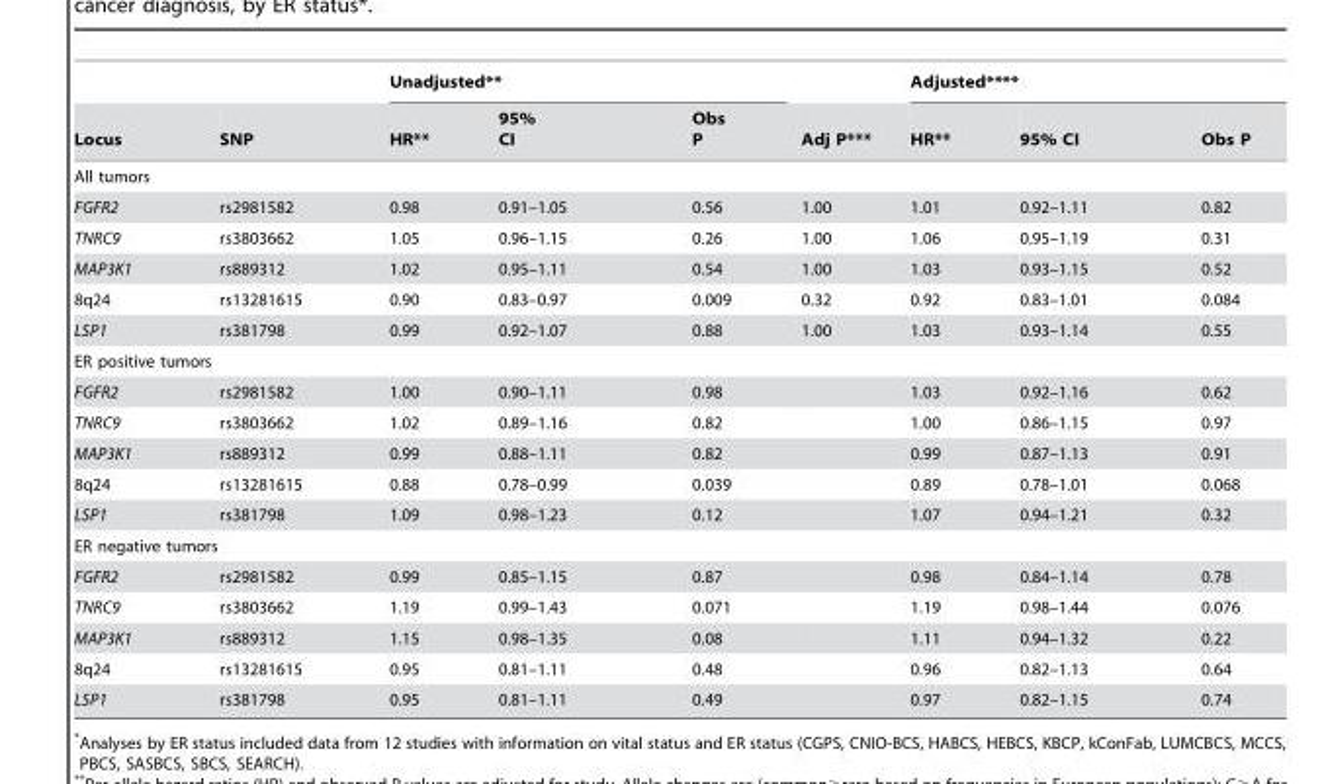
<table><thead><tr><td rowspan="2">Locus</td><td rowspan="2">SNP</td><td colspan="3">Unadjusted**</td><td rowspan="2">Adj P***</td><td colspan="3">Adjusted****</td></tr><tr><td>HR**</td><td>95% CI</td><td>Obs P</td><td>HR**</td><td>95% CI</td><td>Obs P</td></tr></thead><tbody><tr><td colspan="9">All tumors</td></tr><tr><td>FGFR2</td><td>rs2981582</td><td>0.98</td><td>0.91–1.05</td><td>0.56</td><td>1.00</td><td>1.01</td><td>0.92–1.11</td><td>0.82</td></tr><tr><td>TNRC9</td><td>rs3803662</td><td>1.05</td><td>0.96–1.15</td><td>0.26</td><td>1.00</td><td>1.06</td><td>0.95–1.19</td><td>0.31</td></tr><tr><td>MAP3K1</td><td>rs889312</td><td>1.02</td><td>0.95–1.11</td><td>0.54</td><td>1.00</td><td>1.03</td><td>0.93–1.15</td><td>0.52</td></tr><tr><td>8q24</td><td>rs13281615</td><td>0.90</td><td>0.83–0.97</td><td>0.009</td><td>0.32</td><td>0.92</td><td>0.83–1.01</td><td>0.084</td></tr><tr><td>LSP1</td><td>rs381798</td><td>0.99</td><td>0.92–1.07</td><td>0.88</td><td>1.00</td><td>1.03</td><td>0.93–1.14</td><td>0.55</td></tr><tr><td colspan="9">ER positive tumors</td></tr><tr><td>FGFR2</td><td>rs2981582</td><td>1.00</td><td>0.90–1.11</td><td>0.98</td><td></td><td>1.03</td><td>0.92–1.16</td><td>0.62</td></tr><tr><td>TNRC9</td><td>rs3803662</td><td>1.02</td><td>0.89–1.16</td><td>0.82</td><td></td><td>1.00</td><td>0.86–1.15</td><td>0.97</td></tr><tr><td>MAP3K1</td><td>rs889312</td><td>0.99</td><td>0.88–1.11</td><td>0.82</td><td></td><td>0.99</td><td>0.87–1.13</td><td>0.91</td></tr><tr><td>8q24</td><td>rs13281615</td><td>0.88</td><td>0.78–0.99</td><td>0.039</td><td></td><td>0.89</td><td>0.78–1.01</td><td>0.068</td></tr><tr><td>LSP1</td><td>rs381798</td><td>1.09</td><td>0.98–1.23</td><td>0.12</td><td></td><td>1.07</td><td>0.94–1.21</td><td>0.32</td></tr><tr><td colspan="9">ER negative tumors</td></tr><tr><td>FGFR2</td><td>rs2981582</td><td>0.99</td><td>0.85–1.15</td><td>0.87</td><td></td><td>0.98</td><td>0.84–1.14</td><td>0.78</td></tr><tr><td>TNRC9</td><td>rs3803662</td><td>1.19</td><td>0.99–1.43</td><td>0.071</td><td></td><td>1.19</td><td>0.98–1.44</td><td>0.076</td></tr><tr><td>MAP3K1</td><td>rs889312</td><td>1.15</td><td>0.98–1.35</td><td>0.08</td><td></td><td>1.11</td><td>0.94–1.32</td><td>0.22</td></tr><tr><td>8q24</td><td>rs13281615</td><td>0.95</td><td>0.81–1.11</td><td>0.48</td><td></td><td>0.96</td><td>0.82–1.13</td><td>0.64</td></tr><tr><td>LSP1</td><td>rs381798</td><td>0.95</td><td>0.81–1.11</td><td>0.49</td><td></td><td>0.97</td><td>0.82–1.15</td><td>0.74</td></tr></tbody></table>